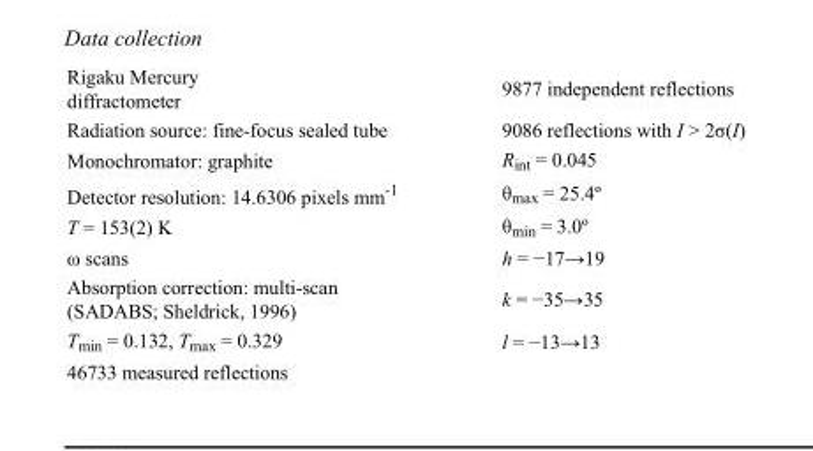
<table><tbody><tr><td>Rigaku Mercury diffractometer</td><td>9877 independent reflections</td></tr><tr><td>Radiation source: fine-focus sealed tube</td><td>9086 reflections with I &gt; 2σ(I)</td></tr><tr><td>Monochromator: graphite</td><td>R<sub>int</sub> = 0.045</td></tr><tr><td>Detector resolution: 14.6306 pixels mm<sup>-1</sup></td><td>θ<sub>max</sub> = 25.4º</td></tr><tr><td>T = 153(2) K</td><td>θ<sub>min</sub> = 3.0º</td></tr><tr><td>ω scans</td><td>h = −17→19</td></tr><tr><td>Absorption correction: multi-scan (SADABS; Sheldrick, 1996)</td><td>k = −35→35</td></tr><tr><td>T<sub>min</sub> = 0.132, T<sub>max</sub> = 0.329</td><td>l = −13→13</td></tr><tr><td>46733 measured reflections</td><td></td></tr></tbody></table>